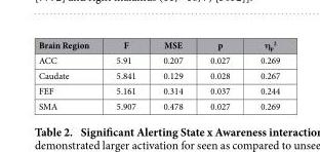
<table><thead><tr><td>Brain Region</td><td>F</td><td>MSE</td><td>p</td><td>η <sub>p</sub> <sup>2</sup></td></tr></thead><tbody><tr><td>ACC</td><td>5.91</td><td>0.207</td><td>0.027</td><td>0.269</td></tr><tr><td>Caudate</td><td>5.841</td><td>0.129</td><td>0.028</td><td>0.267</td></tr><tr><td>FEF</td><td>5.161</td><td>0.314</td><td>0.037</td><td>0.244</td></tr><tr><td>SMA</td><td>5.907</td><td>0.478</td><td>0.027</td><td>0.269</td></tr></tbody></table>